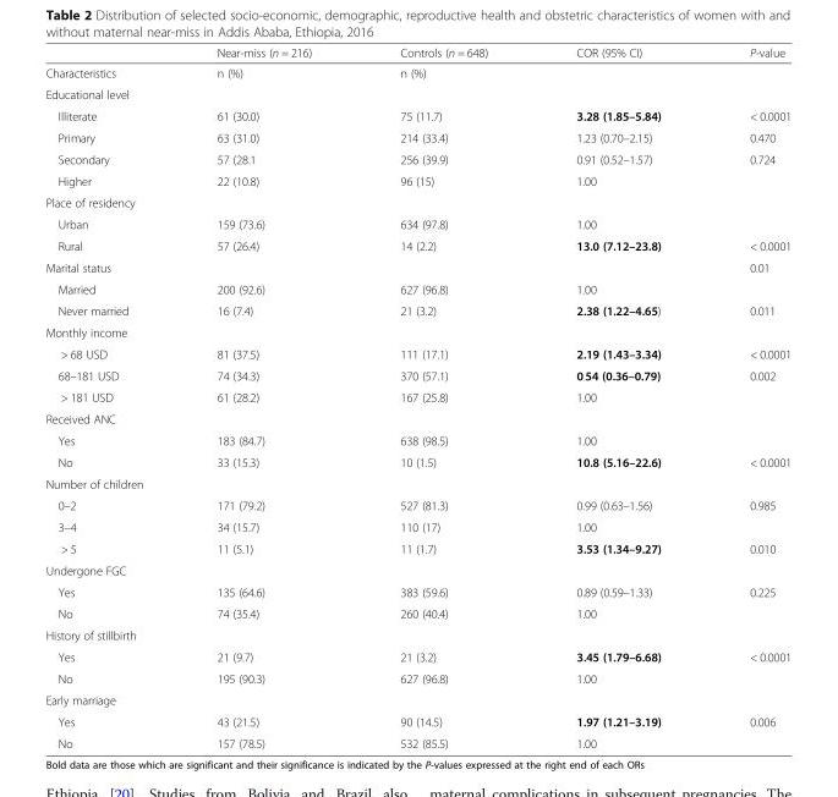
<table><thead><tr><td></td><td>Near-miss (n = 216)</td><td>Controls (n = 648)</td><td>COR (95% CI)</td><td>P-value</td></tr></thead><tbody><tr><td>Characteristics</td><td>n (%)</td><td>n (%)</td><td></td><td></td></tr><tr><td colspan="5">Educational level</td></tr><tr><td>Illiterate</td><td>61 (30.0)</td><td>75 (11.7)</td><td>3.28 (1.85–5.84)</td><td>&lt; 0.0001</td></tr><tr><td>Primary</td><td>63 (31.0)</td><td>214 (33.4)</td><td>1.23 (0.70–2.15)</td><td>0.470</td></tr><tr><td>Secondary</td><td>57 (28.1</td><td>256 (39.9)</td><td>0.91 (0.52–1.57)</td><td>0.724</td></tr><tr><td>Higher</td><td>22 (10.8)</td><td>96 (15)</td><td>1.00</td><td></td></tr><tr><td colspan="5">Place of residency</td></tr><tr><td>Urban</td><td>159 (73.6)</td><td>634 (97.8)</td><td>1.00</td><td></td></tr><tr><td>Rural</td><td>57 (26.4)</td><td>14 (2.2)</td><td>13.0 (7.12–23.8)</td><td>&lt; 0.0001</td></tr><tr><td>Marital status</td><td></td><td></td><td></td><td>0.01</td></tr><tr><td>Married</td><td>200 (92.6)</td><td>627 (96.8)</td><td>1.00</td><td></td></tr><tr><td>Never married</td><td>16 (7.4)</td><td>21 (3.2)</td><td>2.38 (1.22–4.65)</td><td>0.011</td></tr><tr><td colspan="5">Monthly income</td></tr><tr><td>&gt; 68 USD</td><td>81 (37.5)</td><td>111 (17.1)</td><td>2.19 (1.43–3.34)</td><td>&lt; 0.0001</td></tr><tr><td>68–181 USD</td><td>74 (34.3)</td><td>370 (57.1)</td><td>0.54 (0.36–0.79)</td><td>0.002</td></tr><tr><td>&gt; 181 USD</td><td>61 (28.2)</td><td>167 (25.8)</td><td>1.00</td><td></td></tr><tr><td colspan="5">Received ANC</td></tr><tr><td>Yes</td><td>183 (84.7)</td><td>638 (98.5)</td><td>1.00</td><td></td></tr><tr><td>No</td><td>33 (15.3)</td><td>10 (1.5)</td><td>10.8 (5.16–22.6)</td><td>&lt; 0.0001</td></tr><tr><td colspan="5">Number of children</td></tr><tr><td>0–2</td><td>171 (79.2)</td><td>527 (81.3)</td><td>0.99 (0.63–1.56)</td><td>0.985</td></tr><tr><td>3–4</td><td>34 (15.7)</td><td>110 (17)</td><td>1.00</td><td></td></tr><tr><td>&gt; 5</td><td>11 (5.1)</td><td>11 (1.7)</td><td>3.53 (1.34–9.27)</td><td>0.010</td></tr><tr><td colspan="5">Undergone FGC</td></tr><tr><td>Yes</td><td>135 (64.6)</td><td>383 (59.6)</td><td>0.89 (0.59–1.33)</td><td>0.225</td></tr><tr><td>No</td><td>74 (35.4)</td><td>260 (40.4)</td><td>1.00</td><td></td></tr><tr><td colspan="5">History of stillbirth</td></tr><tr><td>Yes</td><td>21 (9.7)</td><td>21 (3.2)</td><td>3.45 (1.79–6.68)</td><td>&lt; 0.0001</td></tr><tr><td>No</td><td>195 (90.3)</td><td>627 (96.8)</td><td>1.00</td><td></td></tr><tr><td colspan="5">Early marriage</td></tr><tr><td>Yes</td><td>43 (21.5)</td><td>90 (14.5)</td><td>1.97 (1.21–3.19)</td><td>0.006</td></tr><tr><td>No</td><td>157 (78.5)</td><td>532 (85.5)</td><td>1.00</td><td></td></tr></tbody></table>